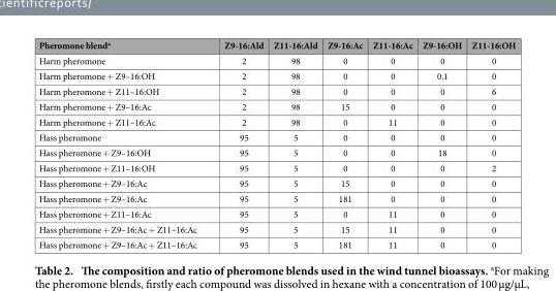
<table><thead><tr><td>Pheromone blend<sup>a</sup></td><td>Z9-16:Ald</td><td>Z11-16:Ald</td><td>Z9-16:Ac</td><td>Z11-16:Ac</td><td>Z9-16:OH</td><td>Z11-16:OH</td></tr></thead><tbody><tr><td>Harm pheromone</td><td>2</td><td>98</td><td>0</td><td>0</td><td>0</td><td>0</td></tr><tr><td>Harm pheromone + Z9–16:OH</td><td>2</td><td>98</td><td>0</td><td>0</td><td>0.1</td><td>0</td></tr><tr><td>Harm pheromone + Z11–16:OH</td><td>2</td><td>98</td><td>0</td><td>0</td><td>0</td><td>6</td></tr><tr><td>Harm pheromone + Z9–16:Ac</td><td>2</td><td>98</td><td>15</td><td>0</td><td>0</td><td>0</td></tr><tr><td>Harm pheromone + Z11–16:Ac</td><td>2</td><td>98</td><td>0</td><td>11</td><td>0</td><td>0</td></tr><tr><td>Hass pheromone</td><td>95</td><td>5</td><td>0</td><td>0</td><td>0</td><td>0</td></tr><tr><td>Hass pheromone + Z9–16:OH</td><td>95</td><td>5</td><td>0</td><td>0</td><td>18</td><td>0</td></tr><tr><td>Hass pheromone + Z11–16:OH</td><td>95</td><td>5</td><td>0</td><td>0</td><td>0</td><td>2</td></tr><tr><td>Hass pheromone + Z9–16:Ac</td><td>95</td><td>5</td><td>15</td><td>0</td><td>0</td><td>0</td></tr><tr><td>Hass pheromone + Z9–16:Ac</td><td>95</td><td>5</td><td>181</td><td>0</td><td>0</td><td>0</td></tr><tr><td>Hass pheromone + Z11–16:Ac</td><td>95</td><td>5</td><td>0</td><td>11</td><td>0</td><td>0</td></tr><tr><td>Hass pheromone + Z9–16:Ac + Z11–16:Ac</td><td>95</td><td>5</td><td>15</td><td>11</td><td>0</td><td>0</td></tr><tr><td>Hass pheromone + Z9–16:Ac + Z11–16:Ac</td><td>95</td><td>5</td><td>181</td><td>11</td><td>0</td><td>0</td></tr></tbody></table>